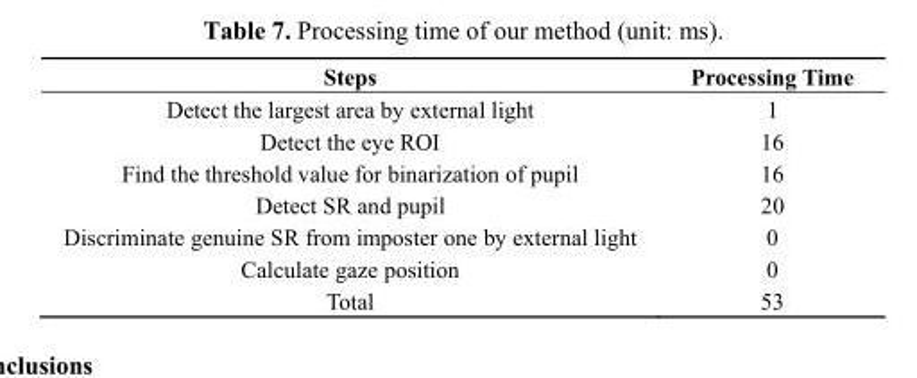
<table><thead><tr><td>Steps</td><td>Processing Time</td></tr></thead><tbody><tr><td>Detect the largest area by external light</td><td>1</td></tr><tr><td>Detect the eye ROI</td><td>16</td></tr><tr><td>Find the threshold value for binarization of pupil</td><td>16</td></tr><tr><td>Detect SR and pupil</td><td>20</td></tr><tr><td>Discriminate genuine SR from imposter one by external light</td><td>0</td></tr><tr><td>Calculate gaze position</td><td>0</td></tr><tr><td>Total</td><td>53</td></tr></tbody></table>